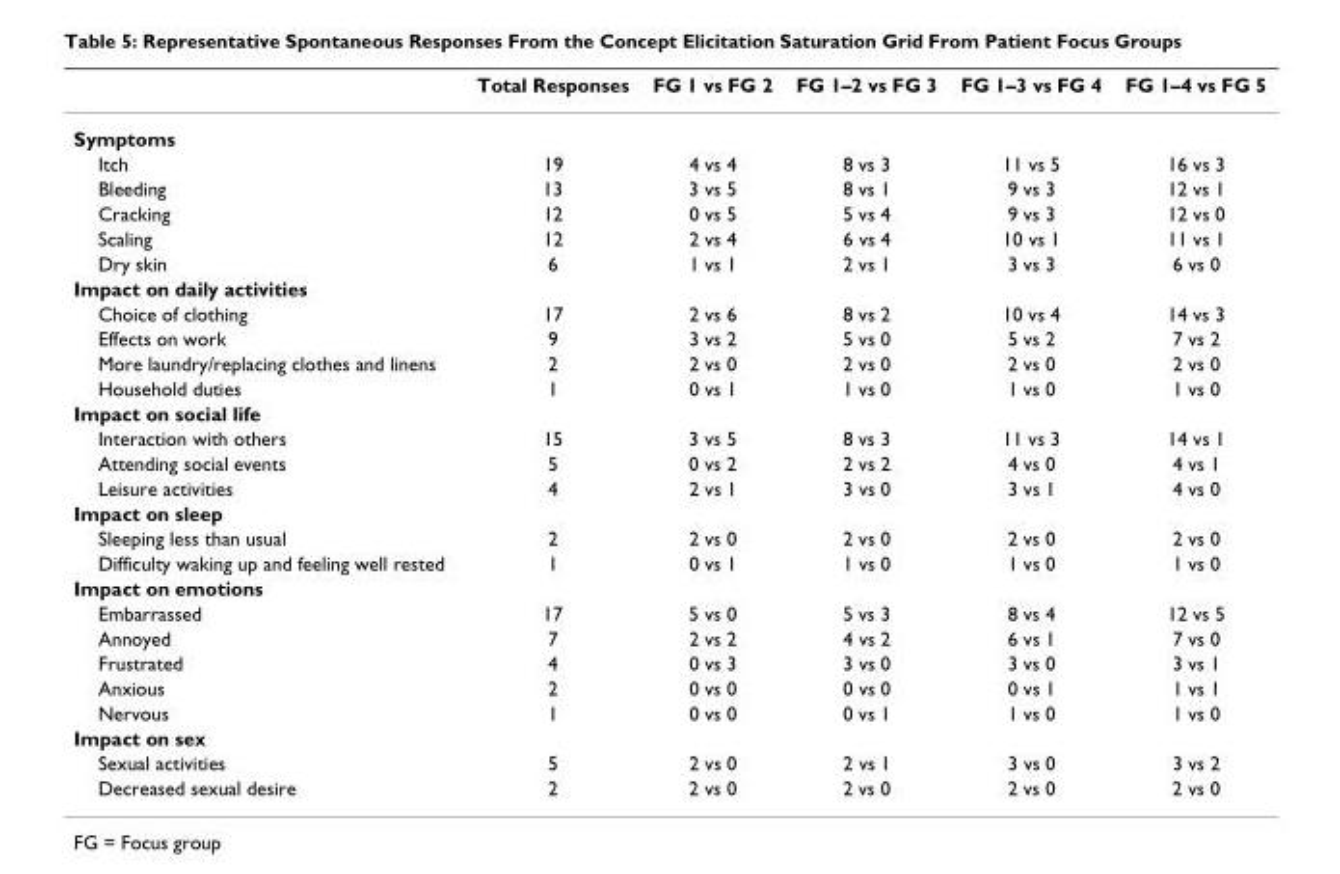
<table><thead><tr><td></td><td>Total Responses</td><td>FG 1 vs FG 2</td><td>FG 1–2 vs FG 3</td><td>FG 1–3 vs FG 4</td><td>FG 1–4 vs FG 5</td></tr></thead><tbody><tr><td colspan="6">Symptoms</td></tr><tr><td>Itch</td><td>19</td><td>4 vs 4</td><td>8 vs 3</td><td>11 vs 5</td><td>16 vs 3</td></tr><tr><td>Bleeding</td><td>13</td><td>3 vs 5</td><td>8 vs 1</td><td>9 vs 3</td><td>12 vs 1</td></tr><tr><td>Cracking</td><td>12</td><td>0 vs 5</td><td>5 vs 4</td><td>9 vs 3</td><td>12 vs 0</td></tr><tr><td>Scaling</td><td>12</td><td>2 vs 4</td><td>6 vs 4</td><td>10 vs 1</td><td>11 vs 1</td></tr><tr><td>Dry skin</td><td>6</td><td>1 vs 1</td><td>2 vs 1</td><td>3 vs 3</td><td>6 vs 0</td></tr><tr><td colspan="6">Impact on daily activities</td></tr><tr><td>Choice of clothing</td><td>17</td><td>2 vs 6</td><td>8 vs 2</td><td>10 vs 4</td><td>14 vs 3</td></tr><tr><td>Effects on work</td><td>9</td><td>3 vs 2</td><td>5 vs 0</td><td>5 vs 2</td><td>7 vs 2</td></tr><tr><td>More laundry/replacing clothes and linens</td><td>2</td><td>2 vs 0</td><td>2 vs 0</td><td>2 vs 0</td><td>2 vs 0</td></tr><tr><td>Household duties</td><td>1</td><td>0 vs 1</td><td>1 vs 0</td><td>1 vs 0</td><td>1 vs 0</td></tr><tr><td colspan="6">Impact on social life</td></tr><tr><td>Interaction with others</td><td>15</td><td>3 vs 5</td><td>8 vs 3</td><td>11 vs 3</td><td>14 vs 1</td></tr><tr><td>Attending social events</td><td>5</td><td>0 vs 2</td><td>2 vs 2</td><td>4 vs 0</td><td>4 vs 1</td></tr><tr><td>Leisure activities</td><td>4</td><td>2 vs 1</td><td>3 vs 0</td><td>3 vs 1</td><td>4 vs 0</td></tr><tr><td colspan="6">Impact on sleep</td></tr><tr><td>Sleeping less than usual</td><td>2</td><td>2 vs 0</td><td>2 vs 0</td><td>2 vs 0</td><td>2 vs 0</td></tr><tr><td>Difficulty waking up and feeling well rested</td><td>1</td><td>0 vs 1</td><td>1 vs 0</td><td>1 vs 0</td><td>1 vs 0</td></tr><tr><td colspan="6">Impact on emotions</td></tr><tr><td>Embarrassed</td><td>17</td><td>5 vs 0</td><td>5 vs 3</td><td>8 vs 4</td><td>12 vs 5</td></tr><tr><td>Annoyed</td><td>7</td><td>2 vs 2</td><td>4 vs 2</td><td>6 vs 1</td><td>7 vs 0</td></tr><tr><td>Frustrated</td><td>4</td><td>0 vs 3</td><td>3 vs 0</td><td>3 vs 0</td><td>3 vs 1</td></tr><tr><td>Anxious</td><td>2</td><td>0 vs 0</td><td>0 vs 0</td><td>0 vs 1</td><td>1 vs 1</td></tr><tr><td>Nervous</td><td>1</td><td>0 vs 0</td><td>0 vs 1</td><td>1 vs 0</td><td>1 vs 0</td></tr><tr><td colspan="6">Impact on sex</td></tr><tr><td>Sexual activities</td><td>5</td><td>2 vs 0</td><td>2 vs 1</td><td>3 vs 0</td><td>3 vs 2</td></tr><tr><td>Decreased sexual desire</td><td>2</td><td>2 vs 0</td><td>2 vs 0</td><td>2 vs 0</td><td>2 vs 0</td></tr></tbody></table>